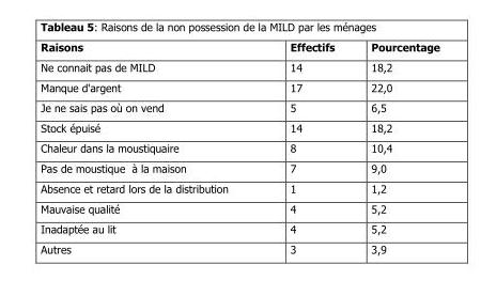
<table><thead><tr><td>Raisons</td><td>Effectifs</td><td>Pourcentage</td></tr></thead><tbody><tr><td>Ne connait pas de MILD</td><td>14</td><td>18,2</td></tr><tr><td>Manque d&#x27;argent</td><td>17</td><td>22,0</td></tr><tr><td>Je ne sais pas où on vend</td><td>5</td><td>6,5</td></tr><tr><td>Stock épuisé</td><td>14</td><td>18,2</td></tr><tr><td>Chaleur dans la moustiquaire</td><td>8</td><td>10,4</td></tr><tr><td>Pas de moustique à la maison</td><td>7</td><td>9,0</td></tr><tr><td>Absence et retard lors de la distribution</td><td>1</td><td>1,2</td></tr><tr><td>Mauvaise qualité</td><td>4</td><td>5,2</td></tr><tr><td>Inadaptée au lit</td><td>4</td><td>5,2</td></tr><tr><td>Autres</td><td>3</td><td>3,9</td></tr></tbody></table>